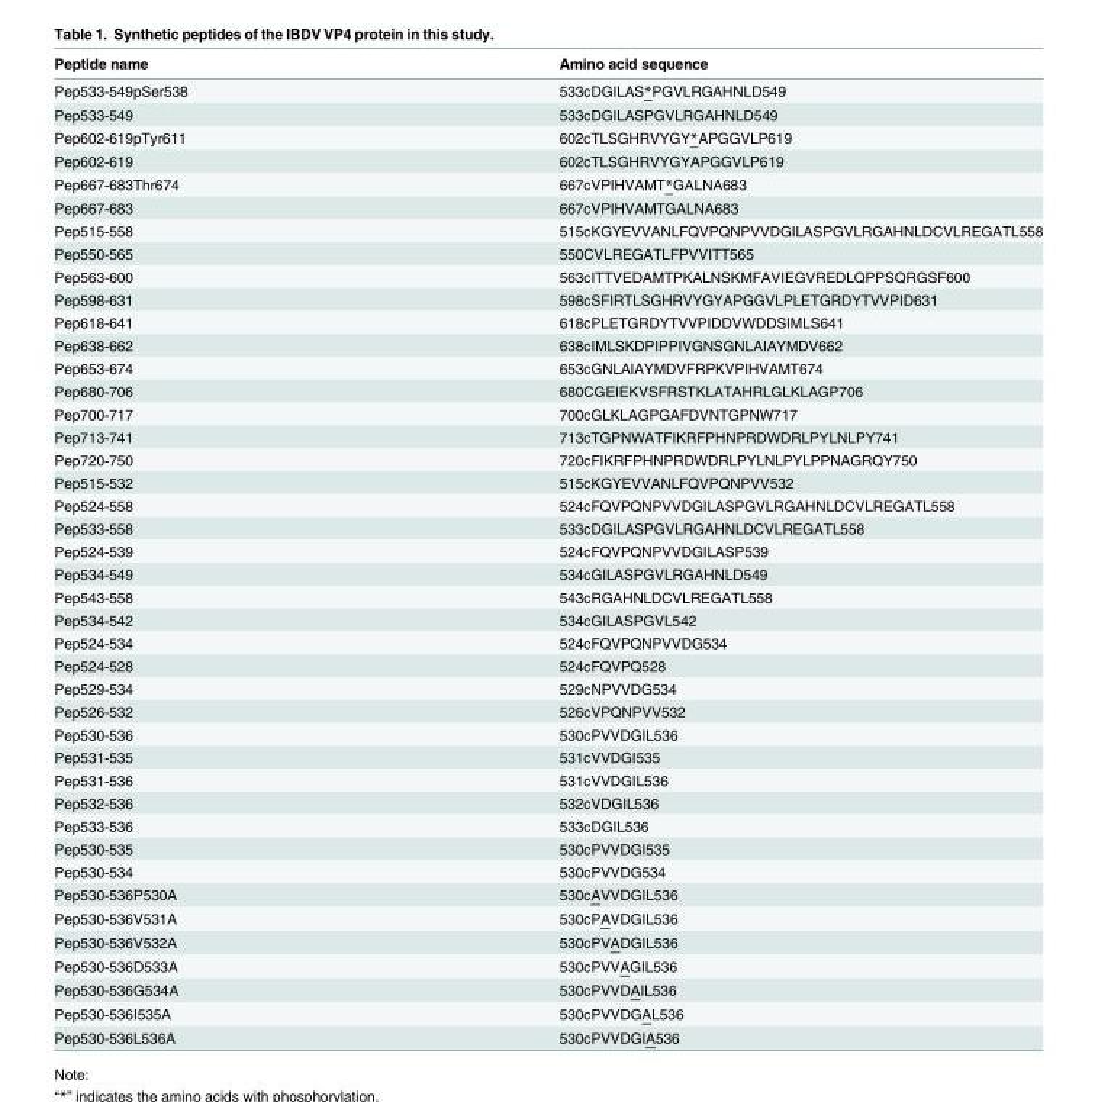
<table><thead><tr><td>Peptide name</td><td>Amino acid sequence</td></tr></thead><tbody><tr><td>Pep533-549pSer538</td><td>533cDGILAS*PGVLRGAHNLD549</td></tr><tr><td>Pep533-549</td><td>533cDGILASPGVLRGAHNLD549</td></tr><tr><td>Pep602-619pTyr611</td><td>602cTLSGHRVYGY*APGGVLP619</td></tr><tr><td>Pep602-619</td><td>602cTLSGHRVYGYAPGGVLP619</td></tr><tr><td>Pep667-683Thr674</td><td>667cVPIHVAMT*GALNA683</td></tr><tr><td>Pep667-683</td><td>667cVPIHVAMTGALNA683</td></tr><tr><td>Pep515-558</td><td>515cKGYEVVANLFQVPQNPVVDGILASPGVLRGAHNLDCVLREGATL558</td></tr><tr><td>Pep550-565</td><td>550CVLREGATLFPVVITT565</td></tr><tr><td>Pep563-600</td><td>563cITTVEDAMTPKALNSKMFAVIEGVREDLQPPSQRGSF600</td></tr><tr><td>Pep598-631</td><td>598cSFIRTLSGHRVYGYAPGGVLPLETGRDYTVVPID631</td></tr><tr><td>Pep618-641</td><td>618cPLETGRDYTVVPIDDVWDDSIMLS641</td></tr><tr><td>Pep638-662</td><td>638cIMLSKDPIPPIVGNSGNLAIAYMDV662</td></tr><tr><td>Pep653-674</td><td>653cGNLAIAYMDVFRPKVPIHVAMT674</td></tr><tr><td>Pep680-706</td><td>680CGEIEKVSFRSTKLATAHRLGLKLAGP706</td></tr><tr><td>Pep700-717</td><td>700cGLKLAGPGAFDVNTGPNW717</td></tr><tr><td>Pep713-741</td><td>713cTGPNWATFIKRFPHNPRDWDRLPYLNLPY741</td></tr><tr><td>Pep720-750</td><td>720cFIKRFPHNPRDWDRLPYLNLPYLPPNAGRQY750</td></tr><tr><td>Pep515-532</td><td>515cKGYEVVANLFQVPQNPVV532</td></tr><tr><td>Pep524-558</td><td>524cFQVPQNPVVDGILASPGVLRGAHNLDCVLREGATL558</td></tr><tr><td>Pep533-558</td><td>533cDGILASPGVLRGAHNLDCVLREGATL558</td></tr><tr><td>Pep524-539</td><td>524cFQVPQNPVVDGILASP539</td></tr><tr><td>Pep534-549</td><td>534cGILASPGVLRGAHNLD549</td></tr><tr><td>Pep543-558</td><td>543cRGAHNLDCVLREGATL558</td></tr><tr><td>Pep534-542</td><td>534cGILASPGVL542</td></tr><tr><td>Pep524-534</td><td>524cFQVPQNPVVDG534</td></tr><tr><td>Pep524-528</td><td>524cFQVPQ528</td></tr><tr><td>Pep529-534</td><td>529cNPVVDG534</td></tr><tr><td>Pep526-532</td><td>526cVPQNPVV532</td></tr><tr><td>Pep530-536</td><td>530cPVVDGIL536</td></tr><tr><td>Pep531-535</td><td>531cVVDGI535</td></tr><tr><td>Pep531-536</td><td>531cVVDGIL536</td></tr><tr><td>Pep532-536</td><td>532cVDGIL536</td></tr><tr><td>Pep533-536</td><td>533cDGIL536</td></tr><tr><td>Pep530-535</td><td>530cPVVDGI535</td></tr><tr><td>Pep530-534</td><td>530cPVVDG534</td></tr><tr><td>Pep530-536P530A</td><td>530cAVVDGIL536</td></tr><tr><td>Pep530-536V531A</td><td>530cPAVDGIL536</td></tr><tr><td>Pep530-536V532A</td><td>530cPVADGIL536</td></tr><tr><td>Pep530-536D533A</td><td>530cPVVAGIL536</td></tr><tr><td>Pep530-536G534A</td><td>530cPVVDAIL536</td></tr><tr><td>Pep530-536I535A</td><td>530cPVVDGAL536</td></tr><tr><td>Pep530-536L536A</td><td>530cPVVDGIA536</td></tr></tbody></table>